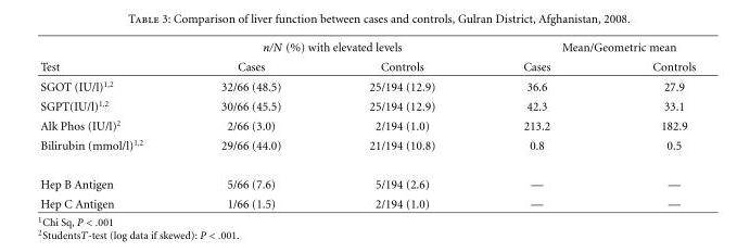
<table><thead><tr><td rowspan="2">Test</td><td colspan="2">n/N (%) with elevated levels</td><td colspan="2">Mean/Geometric mean</td></tr><tr><td>Cases</td><td>Controls</td><td>Cases</td><td>Controls</td></tr></thead><tbody><tr><td>SGOT (IU/l)<sup>1,2</sup></td><td>32/66 (48.5)</td><td>25/194 (12.9)</td><td>36.6</td><td>27.9</td></tr><tr><td>SGPT(IU/l)<sup>1,2</sup></td><td>30/66 (45.5)</td><td>25/194 (12.9)</td><td>42.3</td><td>33.1</td></tr><tr><td>Alk Phos (IU/l)<sup>2</sup></td><td>2/66 (3.0)</td><td>2/194 (1.0)</td><td>213.2</td><td>182.9</td></tr><tr><td>Bilirubin (mmol/l)<sup>1,2</sup></td><td>29/66 (44.0)</td><td>21/194 (10.8)</td><td>0.8</td><td>0.5</td></tr><tr><td>Hep B Antigen</td><td>5/66 (7.6)</td><td>5/194 (2.6)</td><td>—</td><td>—</td></tr><tr><td>Hep C Antigen</td><td>1/66 (1.5)</td><td>2/194 (1.0)</td><td>—</td><td>—</td></tr></tbody></table>